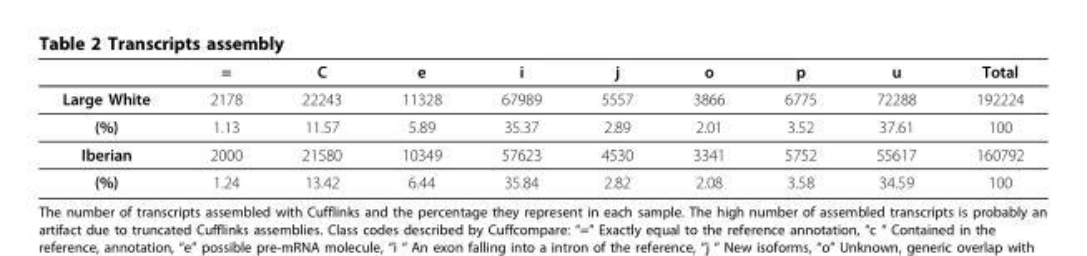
<table><thead><tr><td></td><td>=</td><td>C</td><td>e</td><td>i</td><td>j</td><td>o</td><td>p</td><td>u</td><td>Total</td></tr></thead><tbody><tr><td>Large White</td><td>2178</td><td>22243</td><td>11328</td><td>67989</td><td>5557</td><td>3866</td><td>6775</td><td>72288</td><td>192224</td></tr><tr><td>(%)</td><td>1.13</td><td>11.57</td><td>5.89</td><td>35.37</td><td>2.89</td><td>2.01</td><td>3.52</td><td>37.61</td><td>100</td></tr><tr><td>Iberian</td><td>2000</td><td>21580</td><td>10349</td><td>57623</td><td>4530</td><td>3341</td><td>5752</td><td>55617</td><td>160792</td></tr><tr><td>(%)</td><td>1.24</td><td>13.42</td><td>6.44</td><td>35.84</td><td>2.82</td><td>2.08</td><td>3.58</td><td>34.59</td><td>100</td></tr></tbody></table>